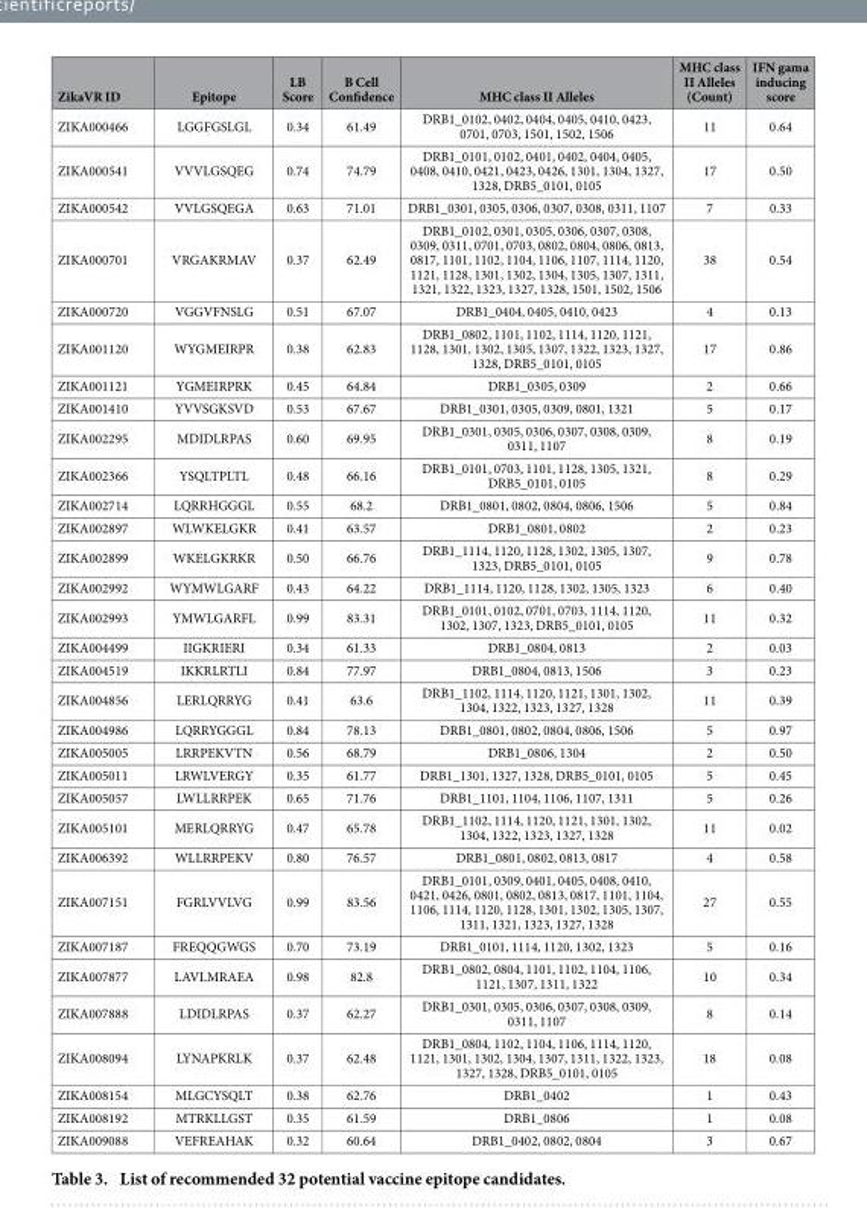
<table><thead><tr><td>ZikaVR ID</td><td>Epitope</td><td>LB Score</td><td>B Cell Confidence</td><td>MHC class II Alleles</td><td>MHC class II Alleles (Count)</td><td>IFN gama inducing score</td></tr></thead><tbody><tr><td>ZIKA000466</td><td>LGGFGSLGL</td><td>0.34</td><td>61.49</td><td>DRB1_0102, 0402, 0404, 0405, 0410, 0423, 0701, 0703, 1501, 1502, 1506</td><td>11</td><td>0.64</td></tr><tr><td>ZIKA000541</td><td>VVVLGSQEG</td><td>0.74</td><td>74.79</td><td>DRB1_0101, 0102, 0401, 0402, 0404, 0405, 0408, 0410, 0421, 0423, 0426, 1301, 1304, 1327, 1328, DRB5_0101, 0105</td><td>17</td><td>0.50</td></tr><tr><td>ZIKA000542</td><td>VVLGSQEGA</td><td>0.63</td><td>71.01</td><td>DRB1_0301, 0305, 0306, 0307, 0308, 0311, 1107</td><td>7</td><td>0.33</td></tr><tr><td>ZIKA000701</td><td>VRGAKRMAV</td><td>0.37</td><td>62.49</td><td>DRB1_0102, 0301, 0305, 0306, 0307, 0308, 0309, 0311, 0701, 0703, 0802, 0804, 0806, 0813, 0817, 1101, 1102, 1104, 1106, 1107, 1114, 1120, 1121, 1128, 1301, 1302, 1304, 1305, 1307, 1311, 1321, 1322, 1323, 1327, 1328, 1501, 1502, 1506</td><td>38</td><td>0.54</td></tr><tr><td>ZIKA000720</td><td>VGGVFNSLG</td><td>0.51</td><td>67.07</td><td>DRB1_0404, 0405, 0410, 0423</td><td>4</td><td>0.13</td></tr><tr><td>ZIKA001120</td><td>WYGMEIRPR</td><td>0.38</td><td>62.83</td><td>DRB1_0802, 1101, 1102, 1114, 1120, 1121, 1128, 1301, 1302, 1305, 1307, 1322, 1323, 1327, 1328, DRB5_0101, 0105</td><td>17</td><td>0.86</td></tr><tr><td>ZIKA001121</td><td>YGMEIRPRK</td><td>0.45</td><td>64.84</td><td>DRB1_0305, 0309</td><td>2</td><td>0.66</td></tr><tr><td>ZIKA001410</td><td>YVVSGKSVD</td><td>0.53</td><td>67.67</td><td>DRB1_0301, 0305, 0309, 0801, 1321</td><td>5</td><td>0.17</td></tr><tr><td>ZIKA002295</td><td>MDIDLRPAS</td><td>0.60</td><td>69.95</td><td>DRB1_0301, 0305, 0306, 0307, 0308, 0309, 0311, 1107</td><td>8</td><td>0.19</td></tr><tr><td>ZIKA002366</td><td>YSQLTPLTL</td><td>0.48</td><td>66.16</td><td>DRB1_0101, 0703, 1101, 1128, 1305, 1321, DRB5_0101, 0105</td><td>8</td><td>0.29</td></tr><tr><td>ZIKA002714</td><td>LQRRHGGGL</td><td>0.55</td><td>68.2</td><td>DRB1_0801, 0802, 0804, 0806, 1506</td><td>5</td><td>0.84</td></tr><tr><td>ZIKA002897</td><td>WLWKELGKR</td><td>0.41</td><td>63.57</td><td>DRB1_0801, 0802</td><td>2</td><td>0.23</td></tr><tr><td>ZIKA002899</td><td>WKELGKRKR</td><td>0.50</td><td>66.76</td><td>DRB1_1114, 1120, 1128, 1302, 1305, 1307, 1323, DRB5_0101, 0105</td><td>9</td><td>0.78</td></tr><tr><td>ZIKA002992</td><td>WYMWLGARF</td><td>0.43</td><td>64.22</td><td>DRB1_1114, 1120, 1128, 1302, 1305, 1323</td><td>6</td><td>0.40</td></tr><tr><td>ZIKA002993</td><td>YMWLGARFL</td><td>0.99</td><td>83.31</td><td>DRB1_0101, 0102, 0701, 0703, 1114, 1120, 1302, 1307, 1323, DRB5_0101, 0105</td><td>11</td><td>0.32</td></tr><tr><td>ZIKA004499</td><td>IIGKRIERI</td><td>0.34</td><td>61.33</td><td>DRB1_0804, 0813</td><td>2</td><td>0.03</td></tr><tr><td>ZIKA004519</td><td>IKKRLRTLI</td><td>0.84</td><td>77.97</td><td>DRB1_0804, 0813, 1506</td><td>3</td><td>0.23</td></tr><tr><td>ZIKA004856</td><td>LERLQRRYG</td><td>0.41</td><td>63.6</td><td>DRB1_1102, 1114, 1120, 1121, 1301, 1302, 1304, 1322, 1323, 1327, 1328</td><td>11</td><td>0.39</td></tr><tr><td>ZIKA004986</td><td>LQRRYGGGL</td><td>0.84</td><td>78.13</td><td>DRB1_0801, 0802, 0804, 0806, 1506</td><td>5</td><td>0.97</td></tr><tr><td>ZIKA005005</td><td>LRRPEKVTN</td><td>0.56</td><td>68.79</td><td>DRB1_0806, 1304</td><td>2</td><td>0.50</td></tr><tr><td>ZIKA005011</td><td>LRWLVERGY</td><td>0.35</td><td>61.77</td><td>DRB1_1301, 1327, 1328, DRB5_0101, 0105</td><td>5</td><td>0.45</td></tr><tr><td>ZIKA005057</td><td>LWLLRRPEK</td><td>0.65</td><td>71.76</td><td>DRB1_1101, 1104, 1106, 1107, 1311</td><td>5</td><td>0.26</td></tr><tr><td>ZIKA005101</td><td>MERLQRRYG</td><td>0.47</td><td>65.78</td><td>DRB1_1102, 1114, 1120, 1121, 1301, 1302, 1304, 1322, 1323, 1327, 1328</td><td>11</td><td>0.02</td></tr><tr><td>ZIKA006392</td><td>WLLRRPEKV</td><td>0.80</td><td>76.57</td><td>DRB1_0801, 0802, 0813, 0817</td><td>4</td><td>0.58</td></tr><tr><td>ZIKA007151</td><td>FGRLVVLVG</td><td>0.99</td><td>83.56</td><td>DRB1_0101, 0309, 0401, 0405, 0408, 0410, 0421, 0426, 0801, 0802, 0813, 0817, 1101, 1104, 1106, 1114, 1120, 1128, 1301, 1302, 1305, 1307, 1311, 1321, 1323, 1327, 1328</td><td>27</td><td>0.55</td></tr><tr><td>ZIKA007187</td><td>FREQQGWGS</td><td>0.70</td><td>73.19</td><td>DRB1_0101, 1114, 1120, 1302, 1323</td><td>5</td><td>0.16</td></tr><tr><td>ZIKA007877</td><td>LAVLMRAEA</td><td>0.98</td><td>82.8</td><td>DRB1_0802, 0804, 1101, 1102, 1104, 1106, 1121, 1307, 1311, 1322</td><td>10</td><td>0.34</td></tr><tr><td>ZIKA007888</td><td>LDIDLRPAS</td><td>0.37</td><td>62.27</td><td>DRB1_0301, 0305, 0306, 0307, 0308, 0309, 0311, 1107</td><td>8</td><td>0.14</td></tr><tr><td>ZIKA008094</td><td>LYNAPKRLK</td><td>0.37</td><td>62.48</td><td>DRB1_0804, 1102, 1104, 1106, 1114, 1120, 1121, 1301, 1302, 1304, 1307, 1311, 1322, 1323, 1327, 1328, DRB5_0101, 0105</td><td>18</td><td>0.08</td></tr><tr><td>ZIKA008154</td><td>MLGCYSQLT</td><td>0.38</td><td>62.76</td><td>DRB1_0402</td><td>1</td><td>0.43</td></tr><tr><td>ZIKA008192</td><td>MTRKLLGST</td><td>0.35</td><td>61.59</td><td>DRB1_0806</td><td>1</td><td>0.08</td></tr><tr><td>ZIKA009088</td><td>VEFREAHAK</td><td>0.32</td><td>60.64</td><td>DRB1_0402, 0802, 0804</td><td>3</td><td>0.67</td></tr></tbody></table>